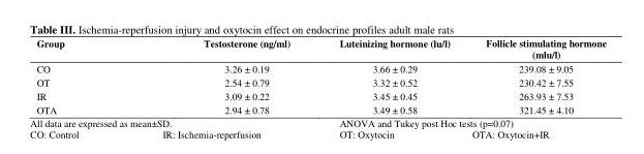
<table><thead><tr><td>Group</td><td>Testosterone (ng/ml)</td><td>Luteinizing hormone (lu/l)</td><td>Follicle stimulating hormone (mlu/l)</td></tr></thead><tbody><tr><td>CO</td><td>3.26 ± 0.19</td><td>3.66 ± 0.29</td><td>239.08 ± 9.05</td></tr><tr><td>OT</td><td>2.54 ± 0.79</td><td>3.32 ± 0.52</td><td>230.42 ± 7.55</td></tr><tr><td>IR</td><td>3.09 ± 0.22</td><td>3.45 ± 0.45</td><td>263.93 ± 7.53</td></tr><tr><td>OTA</td><td>2.94 ± 0.78</td><td>3.49 ± 0.58</td><td>321.45 ± 4.10</td></tr></tbody></table>